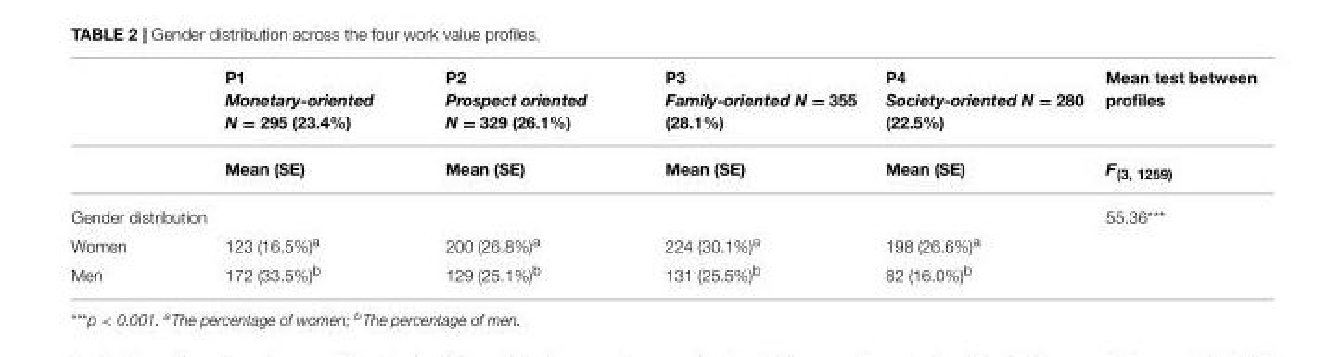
<table><thead><tr><td></td><td>P1 Monetary-oriented N = 295 (23.4%)</td><td>P2 Prospect oriented N = 329 (26.1%)</td><td>P3 Family-oriented N = 355 (28.1%)</td><td>P4 Society-oriented N = 280 (22.5%)</td><td>Mean test between profiles</td></tr></thead><tbody><tr><td></td><td>Mean (SE)</td><td>Mean (SE)</td><td>Mean (SE)</td><td>Mean (SE)</td><td>F<sub>(3, 1259)</sub></td></tr><tr><td>Gender distribution</td><td></td><td></td><td></td><td></td><td>55.36***</td></tr><tr><td>Women</td><td>123 (16.5%)<sup>a</sup></td><td>200 (26.8%)<sup>a</sup></td><td>224 (30.1%)<sup>a</sup></td><td>198 (26.6%)<sup>a</sup></td><td></td></tr><tr><td>Men</td><td>172 (33.5%)<sup>b</sup></td><td>129 (25.1%)<sup>b</sup></td><td>131 (25.5%)<sup>b</sup></td><td>82 (16.0%)<sup>b</sup></td><td></td></tr></tbody></table>